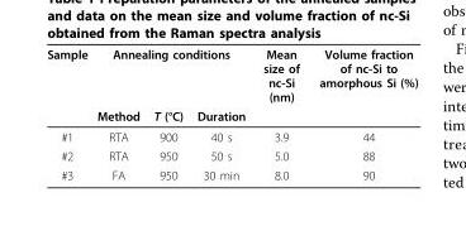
<table><thead><tr><td rowspan="2">Sample</td><td colspan="3">Annealing conditions</td><td rowspan="2">Mean size of nc-Si (nm)</td><td rowspan="2">Volume fraction of nc-Si to amorphous Si (%)</td></tr><tr><td>Method</td><td>T (°C)</td><td>Duration</td></tr></thead><tbody><tr><td>#1</td><td>RTA</td><td>900</td><td>40 s</td><td>3.9</td><td>44</td></tr><tr><td>#2</td><td>RTA</td><td>950</td><td>50 s</td><td>5.0</td><td>88</td></tr><tr><td>#3</td><td>FA</td><td>950</td><td>30 min</td><td>8.0</td><td>90</td></tr></tbody></table>